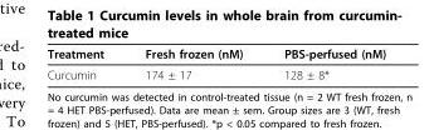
<table><thead><tr><td>Treatment</td><td>Fresh frozen (nM)</td><td>PBS-perfused (nM)</td></tr></thead><tbody><tr><td>Curcumin</td><td>174 ± 17</td><td>128 ± 8*</td></tr></tbody></table>